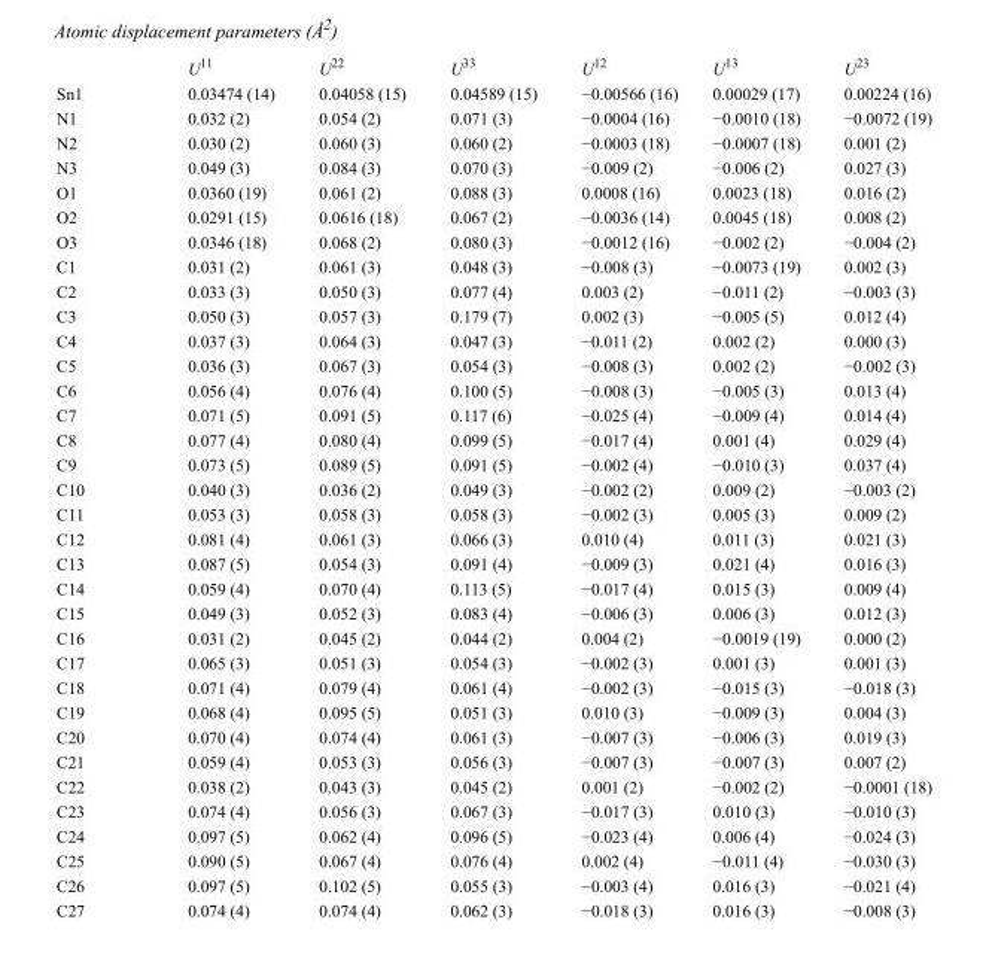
<table><thead><tr><td></td><td>U<sup>11</sup></td><td>U<sup>22</sup></td><td>U<sup>33</sup></td><td>U<sup>12</sup></td><td>U<sup>13</sup></td><td>U<sup>23</sup></td></tr></thead><tbody><tr><td>Sn1</td><td>0.03474 (14)</td><td>0.04058 (15)</td><td>0.04589 (15)</td><td>−0.00566 (16)</td><td>0.00029 (17)</td><td>0.00224 (16)</td></tr><tr><td>N1</td><td>0.032 (2)</td><td>0.054 (2)</td><td>0.071 (3)</td><td>−0.0004 (16)</td><td>−0.0010 (18)</td><td>−0.0072 (19)</td></tr><tr><td>N2</td><td>0.030 (2)</td><td>0.060 (3)</td><td>0.060 (2)</td><td>−0.0003 (18)</td><td>−0.0007 (18)</td><td>0.001 (2)</td></tr><tr><td>N3</td><td>0.049 (3)</td><td>0.084 (3)</td><td>0.070 (3)</td><td>−0.009 (2)</td><td>−0.006 (2)</td><td>0.027 (3)</td></tr><tr><td>O1</td><td>0.0360 (19)</td><td>0.061 (2)</td><td>0.088 (3)</td><td>0.0008 (16)</td><td>0.0023 (18)</td><td>0.016 (2)</td></tr><tr><td>O2</td><td>0.0291 (15)</td><td>0.0616 (18)</td><td>0.067 (2)</td><td>−0.0036 (14)</td><td>0.0045 (18)</td><td>0.008 (2)</td></tr><tr><td>O3</td><td>0.0346 (18)</td><td>0.068 (2)</td><td>0.080 (3)</td><td>−0.0012 (16)</td><td>−0.002 (2)</td><td>−0.004 (2)</td></tr><tr><td>C1</td><td>0.031 (2)</td><td>0.061 (3)</td><td>0.048 (3)</td><td>−0.008 (3)</td><td>−0.0073 (19)</td><td>0.002 (3)</td></tr><tr><td>C2</td><td>0.033 (3)</td><td>0.050 (3)</td><td>0.077 (4)</td><td>0.003 (2)</td><td>−0.011 (2)</td><td>−0.003 (3)</td></tr><tr><td>C3</td><td>0.050 (3)</td><td>0.057 (3)</td><td>0.179 (7)</td><td>0.002 (3)</td><td>−0.005 (5)</td><td>0.012 (4)</td></tr><tr><td>C4</td><td>0.037 (3)</td><td>0.064 (3)</td><td>0.047 (3)</td><td>−0.011 (2)</td><td>0.002 (2)</td><td>0.000 (3)</td></tr><tr><td>C5</td><td>0.036 (3)</td><td>0.067 (3)</td><td>0.054 (3)</td><td>−0.008 (3)</td><td>0.002 (2)</td><td>−0.002 (3)</td></tr><tr><td>C6</td><td>0.056 (4)</td><td>0.076 (4)</td><td>0.100 (5)</td><td>−0.008 (3)</td><td>−0.005 (3)</td><td>0.013 (4)</td></tr><tr><td>C7</td><td>0.071 (5)</td><td>0.091 (5)</td><td>0.117 (6)</td><td>−0.025 (4)</td><td>−0.009 (4)</td><td>0.014 (4)</td></tr><tr><td>C8</td><td>0.077 (4)</td><td>0.080 (4)</td><td>0.099 (5)</td><td>−0.017 (4)</td><td>0.001 (4)</td><td>0.029 (4)</td></tr><tr><td>C9</td><td>0.073 (5)</td><td>0.089 (5)</td><td>0.091 (5)</td><td>−0.002 (4)</td><td>−0.010 (3)</td><td>0.037 (4)</td></tr><tr><td>C10</td><td>0.040 (3)</td><td>0.036 (2)</td><td>0.049 (3)</td><td>−0.002 (2)</td><td>0.009 (2)</td><td>−0.003 (2)</td></tr><tr><td>C11</td><td>0.053 (3)</td><td>0.058 (3)</td><td>0.058 (3)</td><td>−0.002 (3)</td><td>0.005 (3)</td><td>0.009 (2)</td></tr><tr><td>C12</td><td>0.081 (4)</td><td>0.061 (3)</td><td>0.066 (3)</td><td>0.010 (4)</td><td>0.011 (3)</td><td>0.021 (3)</td></tr><tr><td>C13</td><td>0.087 (5)</td><td>0.054 (3)</td><td>0.091 (4)</td><td>−0.009 (3)</td><td>0.021 (4)</td><td>0.016 (3)</td></tr><tr><td>C14</td><td>0.059 (4)</td><td>0.070 (4)</td><td>0.113 (5)</td><td>−0.017 (4)</td><td>0.015 (3)</td><td>0.009 (4)</td></tr><tr><td>C15</td><td>0.049 (3)</td><td>0.052 (3)</td><td>0.083 (4)</td><td>−0.006 (3)</td><td>0.006 (3)</td><td>0.012 (3)</td></tr><tr><td>C16</td><td>0.031 (2)</td><td>0.045 (2)</td><td>0.044 (2)</td><td>0.004 (2)</td><td>−0.0019 (19)</td><td>0.000 (2)</td></tr><tr><td>C17</td><td>0.065 (3)</td><td>0.051 (3)</td><td>0.054 (3)</td><td>−0.002 (3)</td><td>0.001 (3)</td><td>0.001 (3)</td></tr><tr><td>C18</td><td>0.071 (4)</td><td>0.079 (4)</td><td>0.061 (4)</td><td>−0.002 (3)</td><td>−0.015 (3)</td><td>−0.018 (3)</td></tr><tr><td>C19</td><td>0.068 (4)</td><td>0.095 (5)</td><td>0.051 (3)</td><td>0.010 (3)</td><td>−0.009 (3)</td><td>0.004 (3)</td></tr><tr><td>C20</td><td>0.070 (4)</td><td>0.074 (4)</td><td>0.061 (3)</td><td>−0.007 (3)</td><td>−0.006 (3)</td><td>0.019 (3)</td></tr><tr><td>C21</td><td>0.059 (4)</td><td>0.053 (3)</td><td>0.056 (3)</td><td>−0.007 (3)</td><td>−0.007 (3)</td><td>0.007 (2)</td></tr><tr><td>C22</td><td>0.038 (2)</td><td>0.043 (3)</td><td>0.045 (2)</td><td>0.001 (2)</td><td>−0.002 (2)</td><td>−0.0001 (18)</td></tr><tr><td>C23</td><td>0.074 (4)</td><td>0.056 (3)</td><td>0.067 (3)</td><td>−0.017 (3)</td><td>0.010 (3)</td><td>−0.010 (3)</td></tr><tr><td>C24</td><td>0.097 (5)</td><td>0.062 (4)</td><td>0.096 (5)</td><td>−0.023 (4)</td><td>0.006 (4)</td><td>−0.024 (3)</td></tr><tr><td>C25</td><td>0.090 (5)</td><td>0.067 (4)</td><td>0.076 (4)</td><td>0.002 (4)</td><td>−0.011 (4)</td><td>−0.030 (3)</td></tr><tr><td>C26</td><td>0.097 (5)</td><td>0.102 (5)</td><td>0.055 (3)</td><td>−0.003 (4)</td><td>0.016 (3)</td><td>−0.021 (4)</td></tr><tr><td>C27</td><td>0.074 (4)</td><td>0.074 (4)</td><td>0.062 (3)</td><td>−0.018 (3)</td><td>0.016 (3)</td><td>−0.008 (3)</td></tr></tbody></table>